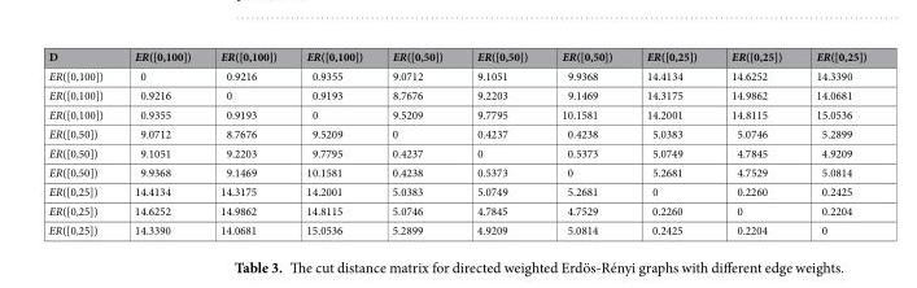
<table><thead><tr><td>D</td><td>ER([0,100])</td><td>ER([0,100])</td><td>ER([0,100])</td><td>ER([0,50])</td><td>ER([0,50])</td><td>ER([0,50])</td><td>ER([0,25])</td><td>ER([0,25])</td><td>ER([0,25])</td></tr></thead><tbody><tr><td>ER([0,100])</td><td>0</td><td>0.9216</td><td>0.9355</td><td>9.0712</td><td>9.1051</td><td>9.9368</td><td>14.4134</td><td>14.6252</td><td>14.3390</td></tr><tr><td>ER([0,100])</td><td>0.9216</td><td>0</td><td>0.9193</td><td>8.7676</td><td>9.2203</td><td>9.1469</td><td>14.3175</td><td>14.9862</td><td>14.0681</td></tr><tr><td>ER([0,100])</td><td>0.9355</td><td>0.9193</td><td>0</td><td>9.5209</td><td>9.7795</td><td>10.1581</td><td>14.2001</td><td>14.8115</td><td>15.0536</td></tr><tr><td>ER([0,50])</td><td>9.0712</td><td>8.7676</td><td>9.5209</td><td>0</td><td>0.4237</td><td>0.4238</td><td>5.0383</td><td>5.0746</td><td>5.2899</td></tr><tr><td>ER([0,50])</td><td>9.1051</td><td>9.2203</td><td>9.7795</td><td>0.4237</td><td>0</td><td>0.5373</td><td>5.0749</td><td>4.7845</td><td>4.9209</td></tr><tr><td>ER([0,50])</td><td>9.9368</td><td>9.1469</td><td>10.1581</td><td>0.4238</td><td>0.5373</td><td>0</td><td>5.2681</td><td>4.7529</td><td>5.0814</td></tr><tr><td>ER([0,25])</td><td>14.4134</td><td>14.3175</td><td>14.2001</td><td>5.0383</td><td>5.0749</td><td>5.2681</td><td>0</td><td>0.2260</td><td>0.2425</td></tr><tr><td>ER([0,25])</td><td>14.6252</td><td>14.9862</td><td>14.8115</td><td>5.0746</td><td>4.7845</td><td>4.7529</td><td>0.2260</td><td>0</td><td>0.2204</td></tr><tr><td>ER([0,25])</td><td>14.3390</td><td>14.0681</td><td>15.0536</td><td>5.2899</td><td>4.9209</td><td>5.0814</td><td>0.2425</td><td>0.2204</td><td>0</td></tr></tbody></table>